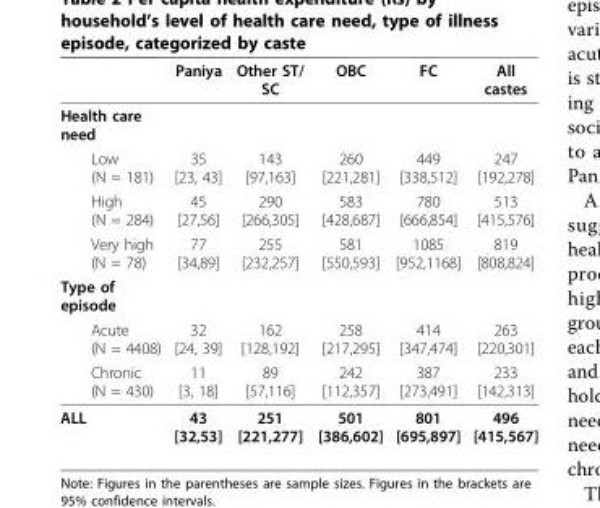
<table><thead><tr><td></td><td>Paniya</td><td>Other ST/ SC</td><td>OBC</td><td>FC</td><td>All castes</td></tr></thead><tbody><tr><td colspan="6">Health care need</td></tr><tr><td>Low (N = 181)</td><td>35 [23, 43]</td><td>143 [97,163]</td><td>260 [221,281]</td><td>449 [338,512]</td><td>247 [192,278]</td></tr><tr><td>High (N = 284)</td><td>45 [27,56]</td><td>290 [266,305]</td><td>583 [428,687]</td><td>780 [666,854]</td><td>513 [415,576]</td></tr><tr><td>Very high (N = 78)</td><td>77 [34,89]</td><td>255 [232,257]</td><td>581 [550,593]</td><td>1085 [952,1168]</td><td>819 [808,824]</td></tr><tr><td colspan="6">Type of episode</td></tr><tr><td>Acute (N = 4408)</td><td>32 [24, 39]</td><td>162 [128,192]</td><td>258 [217,295]</td><td>414 [347,474]</td><td>263 [220,301]</td></tr><tr><td>Chronic (N = 430)</td><td>11 [3, 18]</td><td>89 [57,116]</td><td>242 [112,357]</td><td>387 [273,491]</td><td>233 [142,313]</td></tr><tr><td>ALL</td><td>43 [32,53]</td><td>251 [221,277]</td><td>501 [386,602]</td><td>801 [695,897]</td><td>496 [415,567]</td></tr></tbody></table>